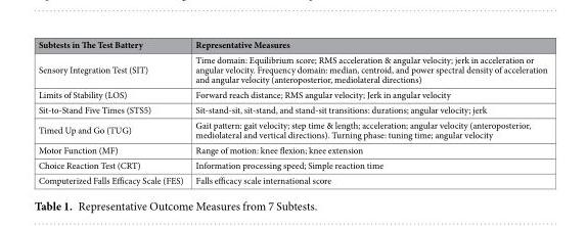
<table><thead><tr><td>Subtests in The Test Battery</td><td>Representative Measures</td></tr></thead><tbody><tr><td>Sensory Integration Test (SIT)</td><td>Time domain: Equilibrium score; RMS acceleration &amp; angular velocity; jerk in acceleration or angular velocity. Frequency domain: median, centroid, and power spectral density of acceleration and angular velocity (anteroposterior, mediolateral directions)</td></tr><tr><td>Limits of Stability (LOS)</td><td>Forward reach distance; RMS angular velocity; Jerk in angular velocity</td></tr><tr><td>Sit-to-Stand Five Times (STS5)</td><td>Sit-stand-sit, sit-stand, and stand-sit transitions: durations; angular velocity; jerk</td></tr><tr><td>Timed Up and Go (TUG)</td><td>Gait pattern: gait velocity; step time &amp; length; acceleration; angular velocity (anteroposterior, mediolateral and vertical directions). Turning phase: tuning time; angular velocity</td></tr><tr><td>Motor Function (MF)</td><td>Range of motion: knee flexion; knee extension</td></tr><tr><td>Choice Reaction Test (CRT)</td><td>Information processing speed; Simple reaction time</td></tr><tr><td>Computerized Falls Efficacy Scale (FES)</td><td>Falls efficacy scale international score</td></tr></tbody></table>